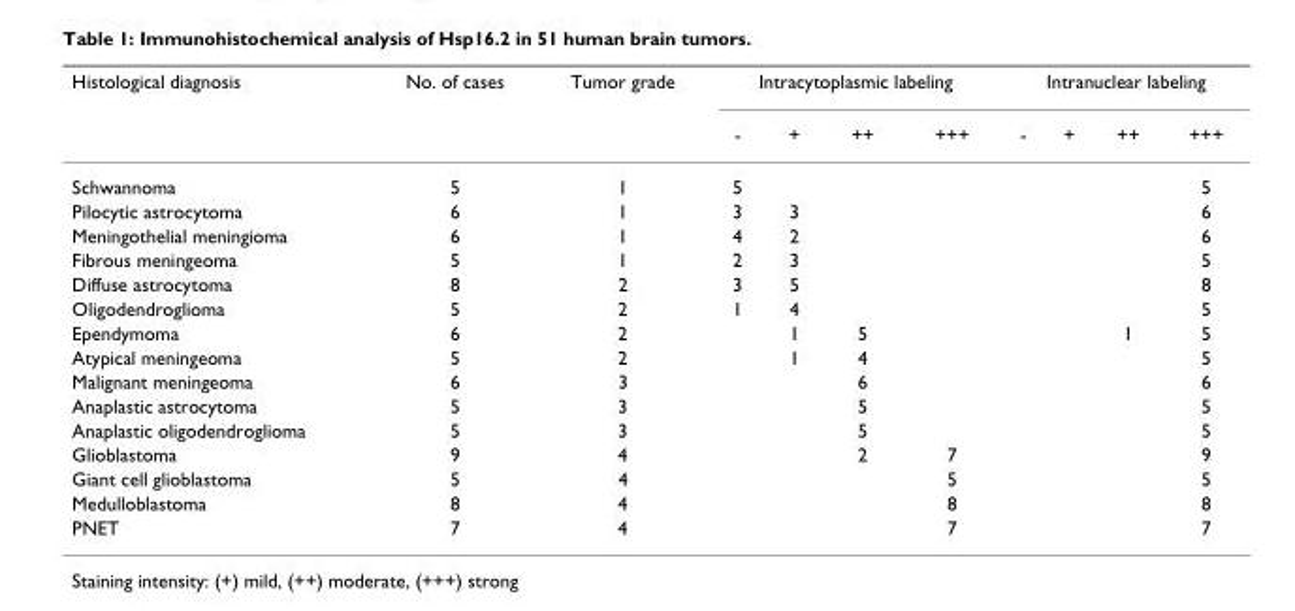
<table><thead><tr><td rowspan="2">Histological diagnosis</td><td rowspan="2">No. of cases</td><td rowspan="2">Tumor grade</td><td colspan="4">Intracytoplasmic labeling</td><td colspan="4">Intranuclear labeling</td></tr><tr><td>-</td><td>+</td><td>++</td><td>+++</td><td>-</td><td>+</td><td>++</td><td>+++</td></tr></thead><tbody><tr><td>Schwannoma</td><td>5</td><td>1</td><td>5</td><td></td><td></td><td></td><td></td><td></td><td></td><td>5</td></tr><tr><td>Pilocytic astrocytoma</td><td>6</td><td>1</td><td>3</td><td>3</td><td></td><td></td><td></td><td></td><td></td><td>6</td></tr><tr><td>Meningothelial meningioma</td><td>6</td><td>1</td><td>4</td><td>2</td><td></td><td></td><td></td><td></td><td></td><td>6</td></tr><tr><td>Fibrous meningeoma</td><td>5</td><td>1</td><td>2</td><td>3</td><td></td><td></td><td></td><td></td><td></td><td>5</td></tr><tr><td>Diffuse astrocytoma</td><td>8</td><td>2</td><td>3</td><td>5</td><td></td><td></td><td></td><td></td><td></td><td>8</td></tr><tr><td>Oligodendroglioma</td><td>5</td><td>2</td><td>1</td><td>4</td><td></td><td></td><td></td><td></td><td></td><td>5</td></tr><tr><td>Ependymoma</td><td>6</td><td>2</td><td></td><td>1</td><td>5</td><td></td><td></td><td></td><td>1</td><td>5</td></tr><tr><td>Atypical meningeoma</td><td>5</td><td>2</td><td></td><td>1</td><td>4</td><td></td><td></td><td></td><td></td><td>5</td></tr><tr><td>Malignant meningeoma</td><td>6</td><td>3</td><td></td><td></td><td>6</td><td></td><td></td><td></td><td></td><td>6</td></tr><tr><td>Anaplastic astrocytoma</td><td>5</td><td>3</td><td></td><td></td><td>5</td><td></td><td></td><td></td><td></td><td>5</td></tr><tr><td>Anaplastic oligodendroglioma</td><td>5</td><td>3</td><td></td><td></td><td>5</td><td></td><td></td><td></td><td></td><td>5</td></tr><tr><td>Glioblastoma</td><td>9</td><td>4</td><td></td><td></td><td>2</td><td>7</td><td></td><td></td><td></td><td>9</td></tr><tr><td>Giant cell glioblastoma</td><td>5</td><td>4</td><td></td><td></td><td></td><td>5</td><td></td><td></td><td></td><td>5</td></tr><tr><td>Medulloblastoma</td><td>8</td><td>4</td><td></td><td></td><td></td><td>8</td><td></td><td></td><td></td><td>8</td></tr><tr><td>PNET</td><td>7</td><td>4</td><td></td><td></td><td></td><td>7</td><td></td><td></td><td></td><td>7</td></tr></tbody></table>